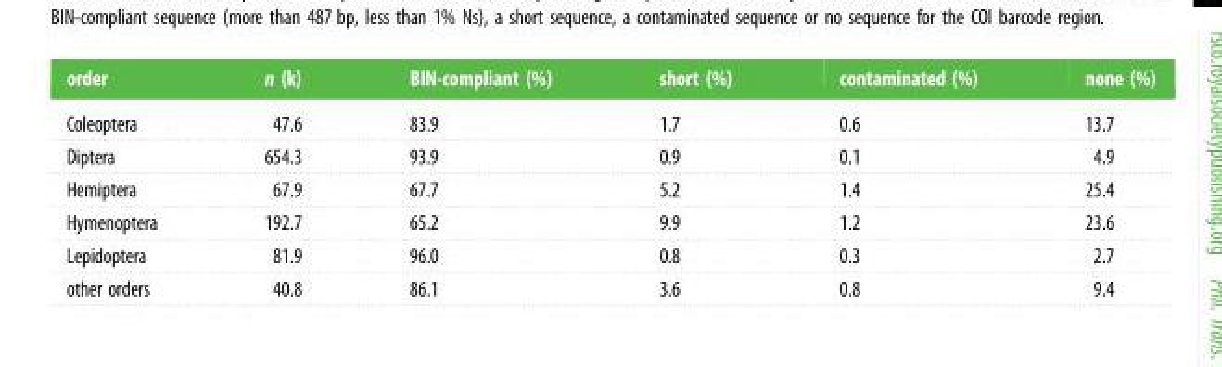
<table><thead><tr><td>order</td><td>n (k)</td><td>BIN-compliant (%)</td><td>short (%)</td><td>contaminated (%)</td><td>none (%)</td></tr></thead><tbody><tr><td>Coleoptera</td><td>47.6</td><td>83.9</td><td>1.7</td><td>0.6</td><td>13.7</td></tr><tr><td>Diptera</td><td>654.3</td><td>93.9</td><td>0.9</td><td>0.1</td><td>4.9</td></tr><tr><td>Hemiptera</td><td>67.9</td><td>67.7</td><td>5.2</td><td>1.4</td><td>25.4</td></tr><tr><td>Hymenoptera</td><td>192.7</td><td>65.2</td><td>9.9</td><td>1.2</td><td>23.6</td></tr><tr><td>Lepidoptera</td><td>81.9</td><td>96.0</td><td>0.8</td><td>0.3</td><td>2.7</td></tr><tr><td>other orders</td><td>40.8</td><td>86.1</td><td>3.6</td><td>0.8</td><td>9.4</td></tr></tbody></table>